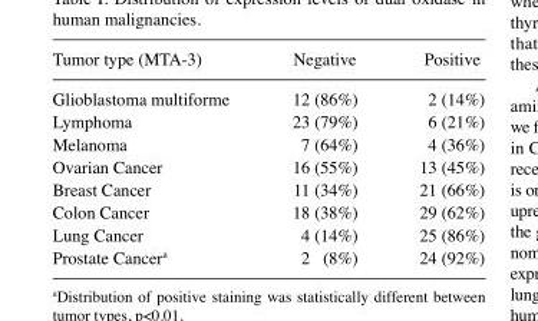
<table><thead><tr><td>Tumor type (MTA-3)</td><td>Negative</td><td>Positive</td></tr></thead><tbody><tr><td>Glioblastoma multiforme</td><td>12 (86%)</td><td>2 (14%)</td></tr><tr><td>Lymphoma</td><td>23 (79%)</td><td>6 (21%)</td></tr><tr><td>Melanoma</td><td>7 (64%)</td><td>4 (36%)</td></tr><tr><td>Ovarian Cancer</td><td>16 (55%)</td><td>13 (45%)</td></tr><tr><td>Breast Cancer</td><td>11 (34%)</td><td>21 (66%)</td></tr><tr><td>Colon Cancer</td><td>18 (38%)</td><td>29 (62%)</td></tr><tr><td>Lung Cancer</td><td>4 (14%)</td><td>25 (86%)</td></tr><tr><td>Prostate Cancer<sup>a</sup></td><td>2 (8%)</td><td>24 (92%)</td></tr></tbody></table>